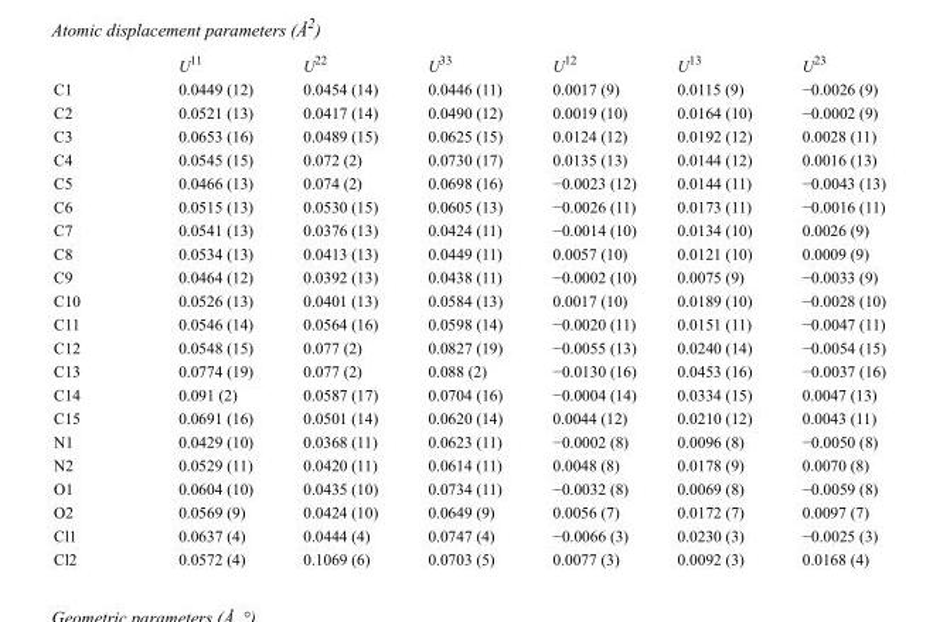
<table><thead><tr><td></td><td>U<sup>11</sup></td><td>U<sup>22</sup></td><td>U<sup>33</sup></td><td>U<sup>12</sup></td><td>U<sup>13</sup></td><td>U<sup>23</sup></td></tr></thead><tbody><tr><td>C1</td><td>0.0449 (12)</td><td>0.0454 (14)</td><td>0.0446 (11)</td><td>0.0017 (9)</td><td>0.0115 (9)</td><td>−0.0026 (9)</td></tr><tr><td>C2</td><td>0.0521 (13)</td><td>0.0417 (14)</td><td>0.0490 (12)</td><td>0.0019 (10)</td><td>0.0164 (10)</td><td>−0.0002 (9)</td></tr><tr><td>C3</td><td>0.0653 (16)</td><td>0.0489 (15)</td><td>0.0625 (15)</td><td>0.0124 (12)</td><td>0.0192 (12)</td><td>0.0028 (11)</td></tr><tr><td>C4</td><td>0.0545 (15)</td><td>0.072 (2)</td><td>0.0730 (17)</td><td>0.0135 (13)</td><td>0.0144 (12)</td><td>0.0016 (13)</td></tr><tr><td>C5</td><td>0.0466 (13)</td><td>0.074 (2)</td><td>0.0698 (16)</td><td>−0.0023 (12)</td><td>0.0144 (11)</td><td>−0.0043 (13)</td></tr><tr><td>C6</td><td>0.0515 (13)</td><td>0.0530 (15)</td><td>0.0605 (13)</td><td>−0.0026 (11)</td><td>0.0173 (11)</td><td>−0.0016 (11)</td></tr><tr><td>C7</td><td>0.0541 (13)</td><td>0.0376 (13)</td><td>0.0424 (11)</td><td>−0.0014 (10)</td><td>0.0134 (10)</td><td>0.0026 (9)</td></tr><tr><td>C8</td><td>0.0534 (13)</td><td>0.0413 (13)</td><td>0.0449 (11)</td><td>0.0057 (10)</td><td>0.0121 (10)</td><td>0.0009 (9)</td></tr><tr><td>C9</td><td>0.0464 (12)</td><td>0.0392 (13)</td><td>0.0438 (11)</td><td>−0.0002 (10)</td><td>0.0075 (9)</td><td>−0.0033 (9)</td></tr><tr><td>C10</td><td>0.0526 (13)</td><td>0.0401 (13)</td><td>0.0584 (13)</td><td>0.0017 (10)</td><td>0.0189 (10)</td><td>−0.0028 (10)</td></tr><tr><td>C11</td><td>0.0546 (14)</td><td>0.0564 (16)</td><td>0.0598 (14)</td><td>−0.0020 (11)</td><td>0.0151 (11)</td><td>−0.0047 (11)</td></tr><tr><td>C12</td><td>0.0548 (15)</td><td>0.077 (2)</td><td>0.0827 (19)</td><td>−0.0055 (13)</td><td>0.0240 (14)</td><td>−0.0054 (15)</td></tr><tr><td>C13</td><td>0.0774 (19)</td><td>0.077 (2)</td><td>0.088 (2)</td><td>−0.0130 (16)</td><td>0.0453 (16)</td><td>−0.0037 (16)</td></tr><tr><td>C14</td><td>0.091 (2)</td><td>0.0587 (17)</td><td>0.0704 (16)</td><td>−0.0004 (14)</td><td>0.0334 (15)</td><td>0.0047 (13)</td></tr><tr><td>C15</td><td>0.0691 (16)</td><td>0.0501 (14)</td><td>0.0620 (14)</td><td>0.0044 (12)</td><td>0.0210 (12)</td><td>0.0043 (11)</td></tr><tr><td>N1</td><td>0.0429 (10)</td><td>0.0368 (11)</td><td>0.0623 (11)</td><td>−0.0002 (8)</td><td>0.0096 (8)</td><td>−0.0050 (8)</td></tr><tr><td>N2</td><td>0.0529 (11)</td><td>0.0420 (11)</td><td>0.0614 (11)</td><td>0.0048 (8)</td><td>0.0178 (9)</td><td>0.0070 (8)</td></tr><tr><td>O1</td><td>0.0604 (10)</td><td>0.0435 (10)</td><td>0.0734 (11)</td><td>−0.0032 (8)</td><td>0.0069 (8)</td><td>−0.0059 (8)</td></tr><tr><td>O2</td><td>0.0569 (9)</td><td>0.0424 (10)</td><td>0.0649 (9)</td><td>0.0056 (7)</td><td>0.0172 (7)</td><td>0.0097 (7)</td></tr><tr><td>Cl1</td><td>0.0637 (4)</td><td>0.0444 (4)</td><td>0.0747 (4)</td><td>−0.0066 (3)</td><td>0.0230 (3)</td><td>−0.0025 (3)</td></tr><tr><td>Cl2</td><td>0.0572 (4)</td><td>0.1069 (6)</td><td>0.0703 (5)</td><td>0.0077 (3)</td><td>0.0092 (3)</td><td>0.0168 (4)</td></tr></tbody></table>